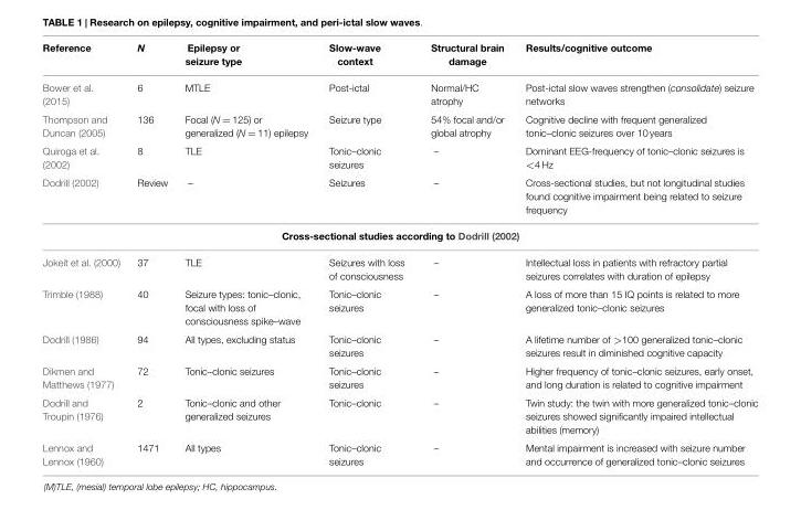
<table><thead><tr><td>Reference</td><td>N</td><td>Epilepsy or seizure type</td><td>Slow-wave context</td><td>Structural brain damage</td><td>Results/cognitive outcome</td></tr></thead><tbody><tr><td>Bower et al. (2015)</td><td>6</td><td>MTLE</td><td>Post-ictal</td><td>Normal/HC atrophy</td><td>Post-ictal slow waves strengthen (consolidate) seizure networks</td></tr><tr><td>Thompson and Duncan (2005)</td><td>136</td><td>Focal (N = 125) or generalized (N = 11) epilepsy</td><td>Seizure type</td><td>54% focal and/or global atrophy</td><td>Cognitive decline with frequent generalized tonic–clonic seizures over 10 years</td></tr><tr><td>Quiroga et al. (2002)</td><td>8</td><td>TLE</td><td>Tonic–clonic seizures</td><td>–</td><td>Dominant EEG-frequency of tonic–clonic seizures is &lt;4 Hz</td></tr><tr><td>Dodrill (2002)</td><td>Review</td><td>–</td><td>Seizures</td><td>–</td><td>Cross-sectional studies, but not longitudinal studies found cognitive impairment being related to seizure frequency</td></tr><tr><td colspan="6">Cross-sectional studies according to Dodrill (2002)</td></tr><tr><td>Jokeit et al. (2000)</td><td>37</td><td>TLE</td><td>Seizures with loss of consciousness</td><td>–</td><td>Intellectual loss in patients with refractory partial seizures correlates with duration of epilepsy</td></tr><tr><td>Trimble (1988)</td><td>40</td><td>Seizure types: tonic–clonic, focal with loss of consciousness spike–wave</td><td>Tonic–clonic seizures</td><td>–</td><td>A loss of more than 15 IQ points is related to more generalized tonic–clonic seizures</td></tr><tr><td>Dodrill (1986)</td><td>94</td><td>All types, excluding status</td><td>Tonic–clonic seizures</td><td>–</td><td>A lifetime number of &gt;100 generalized tonic–clonic seizures result in diminished cognitive capacity</td></tr><tr><td>Dikmen and Matthews (1977)</td><td>72</td><td>Tonic–clonic seizures</td><td>Tonic–clonic seizures</td><td>–</td><td>Higher frequency of tonic–clonic seizures, early onset, and long duration is related to cognitive impairment</td></tr><tr><td>Dodrill and Troupin (1976)</td><td>2</td><td>Tonic–clonic and other generalized seizures</td><td>Tonic–clonic</td><td>–</td><td>Twin study: the twin with more generalized tonic–clonic seizures showed significantly impaired intellectual abilities (memory)</td></tr><tr><td>Lennox and Lennox (1960)</td><td>1471</td><td>All types</td><td>Tonic–clonic seizures</td><td>–</td><td>Mental impairment is increased with seizure number and occurrence of generalized tonic–clonic seizures</td></tr></tbody></table>